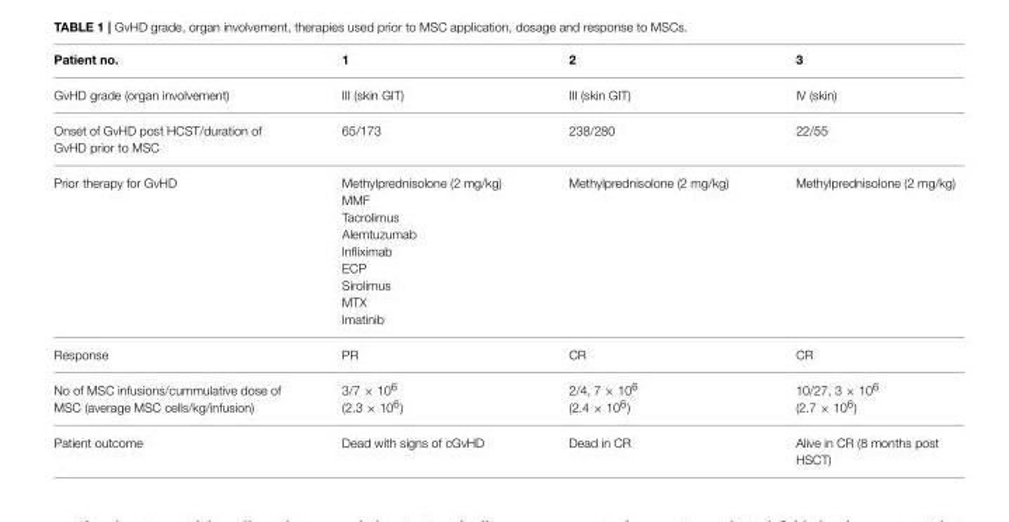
<table><thead><tr><td>Patient no.</td><td>1</td><td>2</td><td>3</td></tr></thead><tbody><tr><td>GvHD grade (organ involvement)</td><td>III (skin GIT)</td><td>III (skin GIT)</td><td>IV (skin)</td></tr><tr><td>Onset of GvHD post HCST/duration of GvHD prior to MSC</td><td>65/173</td><td>238/280</td><td>22/55</td></tr><tr><td>Prior therapy for GvHD</td><td>Methylprednisolone (2 mg/kg) MMF Tacrolimus Alemtuzumab Infliximab ECP Sirolimus MTX Imatinib</td><td>Methylprednisolone (2 mg/kg)</td><td>Methylprednisolone (2 mg/kg)</td></tr><tr><td>Response</td><td>PR</td><td>CR</td><td>CR</td></tr><tr><td>No of MSC infusions/cummulative dose of MSC (average MSC cells/kg/infusion)</td><td>3/7 × 10<sup>6</sup> (2.3 × 10<sup>6</sup>)</td><td>2/4, 7 × 10<sup>6</sup> (2.4 × 10<sup>6</sup>)</td><td>10/27, 3 × 10<sup>6</sup> (2.7 × 10<sup>6</sup>)</td></tr><tr><td>Patient outcome</td><td>Dead with signs of cGvHD</td><td>Dead in CR</td><td>Alive in CR (8 months post HSCT)</td></tr></tbody></table>